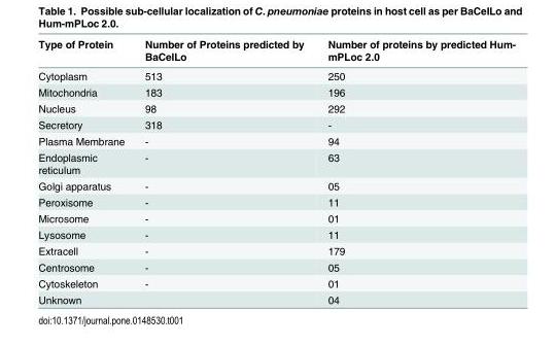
<table><thead><tr><td>Type of Protein</td><td>Number of Proteins predicted by BaCeILo</td><td>Number of proteins by predicted Hum- mPLoc 2.0</td></tr></thead><tbody><tr><td>Cytoplasm</td><td>513</td><td>250</td></tr><tr><td>Mitochondria</td><td>183</td><td>196</td></tr><tr><td>Nucleus</td><td>98</td><td>292</td></tr><tr><td>Secretory</td><td>318</td><td>-</td></tr><tr><td>Plasma Membrane</td><td>-</td><td>94</td></tr><tr><td>Endoplasmic reticulum</td><td>-</td><td>63</td></tr><tr><td>Golgi apparatus</td><td>-</td><td>05</td></tr><tr><td>Peroxisome</td><td>-</td><td>11</td></tr><tr><td>Microsome</td><td>-</td><td>01</td></tr><tr><td>Lysosome</td><td>-</td><td>11</td></tr><tr><td>Extracell</td><td>-</td><td>179</td></tr><tr><td>Centrosome</td><td>-</td><td>05</td></tr><tr><td>Cytoskeleton</td><td>-</td><td>01</td></tr><tr><td>Unknown</td><td></td><td>04</td></tr></tbody></table>